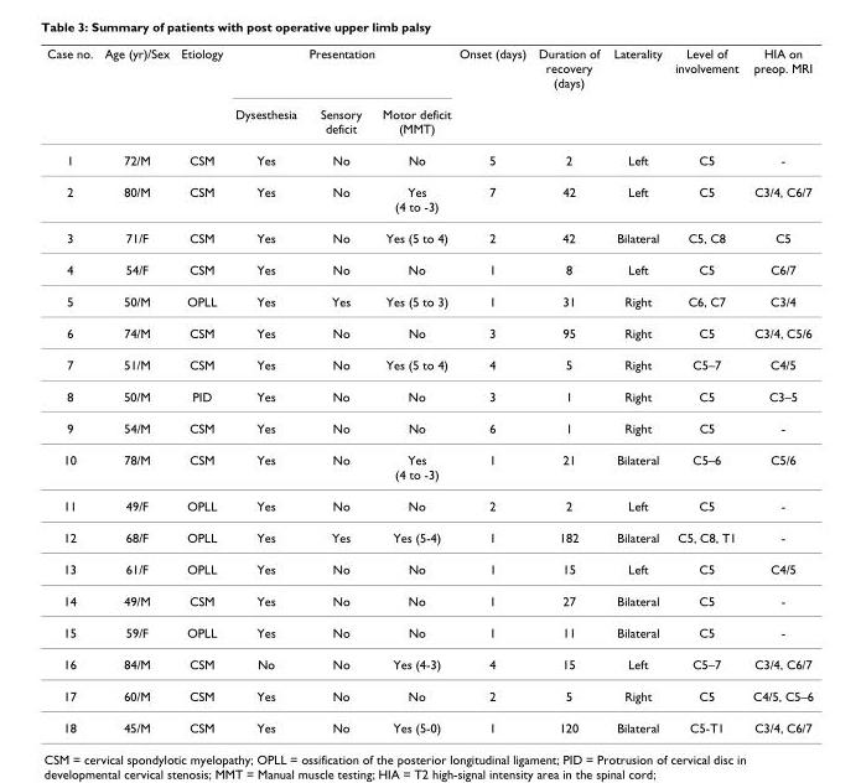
<table><thead><tr><td rowspan="2">Case no.</td><td rowspan="2">Age (yr)/Sex</td><td rowspan="2">Etiology</td><td colspan="3">Presentation</td><td rowspan="2">Onset (days)</td><td rowspan="2">Duration of recovery (days)</td><td rowspan="2">Laterality</td><td rowspan="2">Level of involvement</td><td rowspan="2">HIA on preop. MRI</td></tr><tr><td>Dysesthesia</td><td>Sensory deficit</td><td>Motor deficit (MMT)</td></tr></thead><tbody><tr><td>1</td><td>72/M</td><td>CSM</td><td>Yes</td><td>No</td><td>No</td><td>5</td><td>2</td><td>Left</td><td>C5</td><td>-</td></tr><tr><td>2</td><td>80/M</td><td>CSM</td><td>Yes</td><td>No</td><td>Yes (4 to -3)</td><td>7</td><td>42</td><td>Left</td><td>C5</td><td>C3/4, C6/7</td></tr><tr><td>3</td><td>71/F</td><td>CSM</td><td>Yes</td><td>No</td><td>Yes (5 to 4)</td><td>2</td><td>42</td><td>Bilateral</td><td>C5, C8</td><td>C5</td></tr><tr><td>4</td><td>54/F</td><td>CSM</td><td>Yes</td><td>No</td><td>No</td><td>1</td><td>8</td><td>Left</td><td>C5</td><td>C6/7</td></tr><tr><td>5</td><td>50/M</td><td>OPLL</td><td>Yes</td><td>Yes</td><td>Yes (5 to 3)</td><td>1</td><td>31</td><td>Right</td><td>C6, C7</td><td>C3/4</td></tr><tr><td>6</td><td>74/M</td><td>CSM</td><td>Yes</td><td>No</td><td>No</td><td>3</td><td>95</td><td>Right</td><td>C5</td><td>C3/4, C5/6</td></tr><tr><td>7</td><td>51/M</td><td>CSM</td><td>Yes</td><td>No</td><td>Yes (5 to 4)</td><td>4</td><td>5</td><td>Right</td><td>C5–7</td><td>C4/5</td></tr><tr><td>8</td><td>50/M</td><td>PID</td><td>Yes</td><td>No</td><td>No</td><td>3</td><td>1</td><td>Right</td><td>C5</td><td>C3–5</td></tr><tr><td>9</td><td>54/M</td><td>CSM</td><td>Yes</td><td>No</td><td>No</td><td>6</td><td>1</td><td>Right</td><td>C5</td><td>-</td></tr><tr><td>10</td><td>78/M</td><td>CSM</td><td>Yes</td><td>No</td><td>Yes (4 to -3)</td><td>1</td><td>21</td><td>Bilateral</td><td>C5–6</td><td>C5/6</td></tr><tr><td>11</td><td>49/F</td><td>OPLL</td><td>Yes</td><td>No</td><td>No</td><td>2</td><td>2</td><td>Left</td><td>C5</td><td>-</td></tr><tr><td>12</td><td>68/F</td><td>OPLL</td><td>Yes</td><td>Yes</td><td>Yes (5-4)</td><td>1</td><td>182</td><td>Bilateral</td><td>C5, C8, T1</td><td>-</td></tr><tr><td>13</td><td>61/F</td><td>OPLL</td><td>Yes</td><td>No</td><td>No</td><td>1</td><td>15</td><td>Left</td><td>C5</td><td>C4/5</td></tr><tr><td>14</td><td>49/M</td><td>CSM</td><td>Yes</td><td>No</td><td>No</td><td>1</td><td>27</td><td>Bilateral</td><td>C5</td><td>-</td></tr><tr><td>15</td><td>59/F</td><td>OPLL</td><td>Yes</td><td>No</td><td>No</td><td>1</td><td>11</td><td>Bilateral</td><td>C5</td><td>-</td></tr><tr><td>16</td><td>84/M</td><td>CSM</td><td>No</td><td>No</td><td>Yes (4-3)</td><td>4</td><td>15</td><td>Left</td><td>C5–7</td><td>C3/4, C6/7</td></tr><tr><td>17</td><td>60/M</td><td>CSM</td><td>Yes</td><td>No</td><td>No</td><td>2</td><td>5</td><td>Right</td><td>C5</td><td>C4/5, C5–6</td></tr><tr><td>18</td><td>45/M</td><td>CSM</td><td>Yes</td><td>No</td><td>Yes (5-0)</td><td>1</td><td>120</td><td>Bilateral</td><td>C5-T1</td><td>C3/4, C6/7</td></tr></tbody></table>